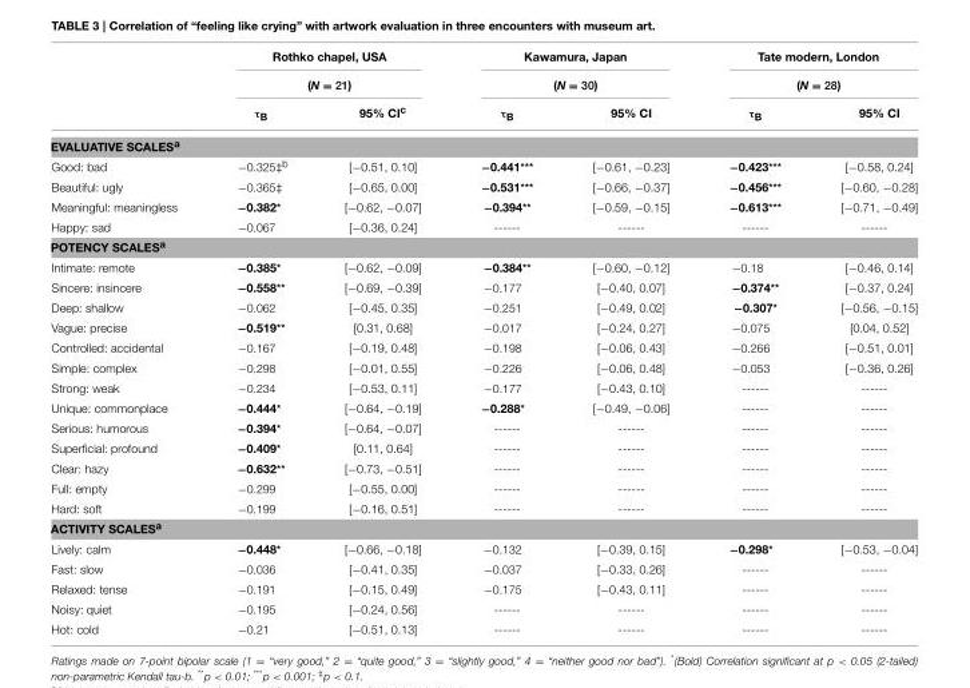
<table><thead><tr><td rowspan="3"></td><td rowspan="2" colspan="2">Rothko chapel, USA (N = 21)</td><td rowspan="2" colspan="2">Kawamura, Japan (N = 30)</td><td rowspan="2" colspan="2">Tate modern, London (N = 28)</td></tr><tr></tr><tr><td>τB</td><td>95% CI<sup>c</sup></td><td>τB</td><td>95% CI</td><td>τB</td><td>95% CI</td></tr></thead><tbody><tr><td colspan="7">EVALUATIVE SCALES<sup>a</sup></td></tr><tr><td>Good: bad</td><td>−0.325‡<sup>b</sup></td><td>[−0.51, 0.10]</td><td>−0.441***</td><td>[−0.61, −0.23]</td><td>−0.423***</td><td>[−0.58, 0.24]</td></tr><tr><td>Beautiful: ugly</td><td>−0.365‡</td><td>[−0.65, 0.00]</td><td>−0.531***</td><td>[−0.66, −0.37]</td><td>−0.456***</td><td>[−0.60, −0.28]</td></tr><tr><td>Meaningful: meaningless</td><td>−0.382*</td><td>[−0.62, −0.07]</td><td>−0.394**</td><td>[−0.59, −0.15]</td><td>−0.613***</td><td>[−0.71, −0.49]</td></tr><tr><td>Happy: sad</td><td>−0.067</td><td>[−0.36, 0.24]</td><td>------</td><td>------</td><td>------</td><td>------</td></tr><tr><td colspan="7">POTENCY SCALES<sup>a</sup></td></tr><tr><td>Intimate: remote</td><td>−0.385*</td><td>[−0.62, −0.09]</td><td>−0.384**</td><td>[−0.60, −0.12]</td><td>−0.18</td><td>[−0.46, 0.14]</td></tr><tr><td>Sincere: insincere</td><td>−0.558**</td><td>[−0.69, −0.39]</td><td>−0.177</td><td>[−0.40, 0.07]</td><td>−0.374**</td><td>[−0.37, 0.24]</td></tr><tr><td>Deep: shallow</td><td>−0.062</td><td>[−0.45, 0.35]</td><td>−0.251</td><td>[−0.49, 0.02]</td><td>−0.307*</td><td>[−0.56, −0.15]</td></tr><tr><td>Vague: precise</td><td>−0.519**</td><td>[0.31, 0.68]</td><td>−0.017</td><td>[−0.24, 0.27]</td><td>−0.075</td><td>[0.04, 0.52]</td></tr><tr><td>Controlled: accidental</td><td>−0.167</td><td>[−0.19, 0.48]</td><td>−0.198</td><td>[−0.06, 0.43]</td><td>−0.266</td><td>[−0.51, 0.01]</td></tr><tr><td>Simple: complex</td><td>−0.298</td><td>[−0.01, 0.55]</td><td>−0.226</td><td>[−0.06, 0.48]</td><td>−0.053</td><td>[−0.36, 0.26]</td></tr><tr><td>Strong: weak</td><td>−0.234</td><td>[−0.53, 0.11]</td><td>−0.177</td><td>[−0.43, 0.10]</td><td>------</td><td>------</td></tr><tr><td>Unique: commonplace</td><td>−0.444*</td><td>[−0.64, −0.19]</td><td>−0.288*</td><td>[−0.49, −0.06]</td><td>------</td><td>------</td></tr><tr><td>Serious: humorous</td><td>−0.394*</td><td>[−0.64, −0.07]</td><td>------</td><td>------</td><td>------</td><td>------</td></tr><tr><td>Superficial: profound</td><td>−0.409*</td><td>[0.11, 0.64]</td><td>------</td><td>------</td><td>------</td><td>------</td></tr><tr><td>Clear: hazy</td><td>−0.632**</td><td>[−0.73, −0.51]</td><td>------</td><td>------</td><td>------</td><td>------</td></tr><tr><td>Full: empty</td><td>−0.299</td><td>[−0.55, 0.00]</td><td>------</td><td>------</td><td>------</td><td>------</td></tr><tr><td>Hard: soft</td><td>−0.199</td><td>[−0.16, 0.51]</td><td>------</td><td>------</td><td>------</td><td>------</td></tr><tr><td colspan="7">ACTIVITY SCALES<sup>a</sup></td></tr><tr><td>Lively: calm</td><td>−0.448*</td><td>[−0.66, −0.18]</td><td>−0.132</td><td>[−0.39, 0.15]</td><td>−0.298*</td><td>[−0.53, −0.04]</td></tr><tr><td>Fast: slow</td><td>−0.036</td><td>[−0.41, 0.35]</td><td>−0.037</td><td>[−0.33, 0.26]</td><td>------</td><td>------</td></tr><tr><td>Relaxed: tense</td><td>−0.191</td><td>[−0.15, 0.49]</td><td>−0.175</td><td>[−0.43, 0.11]</td><td>------</td><td>------</td></tr><tr><td>Noisy: quiet</td><td>−0.195</td><td>[−0.24, 0.56]</td><td>------</td><td>------</td><td>------</td><td>------</td></tr><tr><td>Hot: cold</td><td>−0.21</td><td>[−0.51, 0.13]</td><td>------</td><td>------</td><td>------</td><td>------</td></tr></tbody></table>